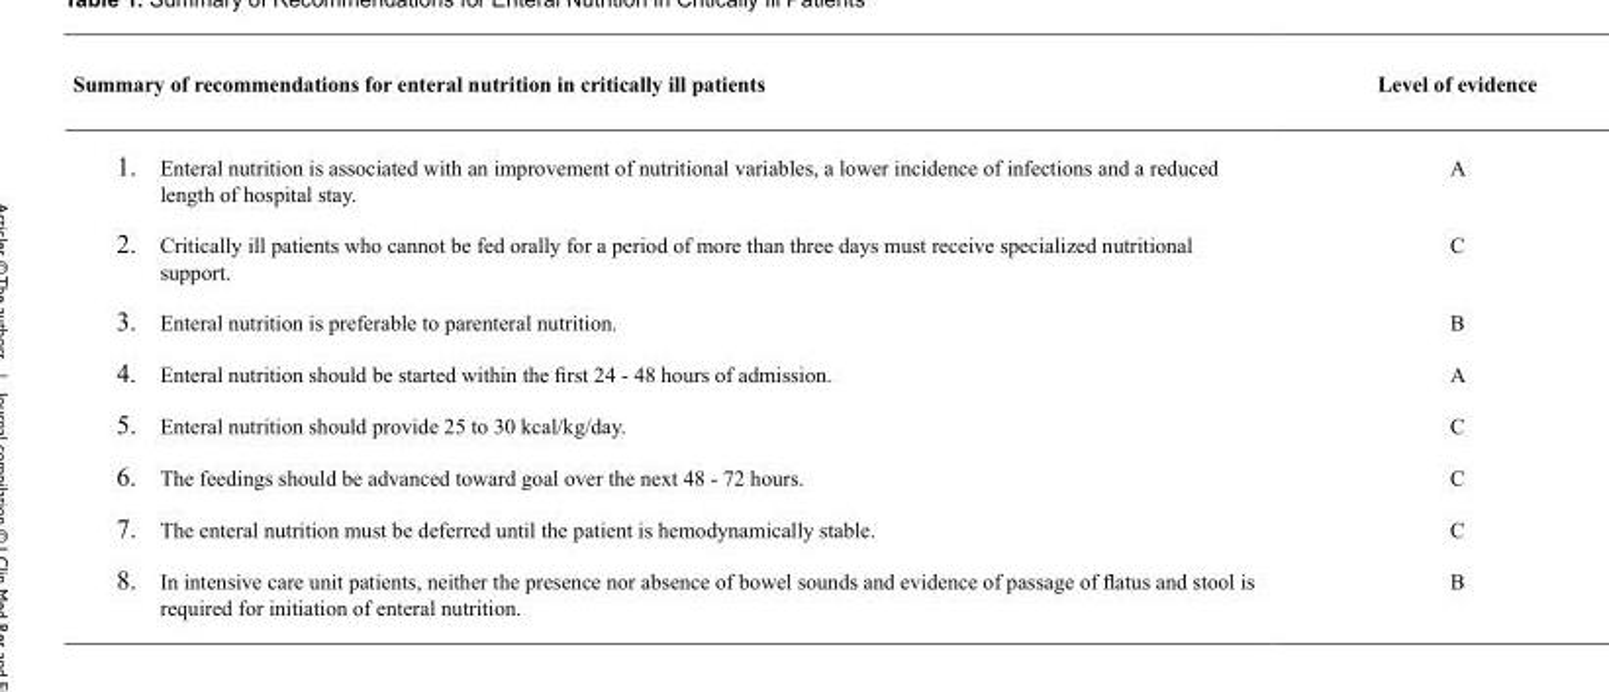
<table><thead><tr><td>Summary of recommendations for enteral nutrition in critically ill patients</td><td>Level of evidence</td></tr></thead><tbody><tr><td>1. Enteral nutrition is associated with an improvement of nutritional variables, a lower incidence of infections and a reduced length of hospital stay.</td><td>A</td></tr><tr><td>2. Critically ill patients who cannot be fed orally for a period of more than three days must receive specialized nutritional support.</td><td>C</td></tr><tr><td>3. Enteral nutrition is preferable to parenteral nutrition.</td><td>B</td></tr><tr><td>4. Enteral nutrition should be started within the first 24 - 48 hours of admission.</td><td>A</td></tr><tr><td>5. Enteral nutrition should provide 25 to 30 kcal/kg/day.</td><td>C</td></tr><tr><td>6. The feedings should be advanced toward goal over the next 48 - 72 hours.</td><td>C</td></tr><tr><td>7. The enteral nutrition must be deferred until the patient is hemodynamically stable.</td><td>C</td></tr><tr><td>8. In intensive care unit patients, neither the presence nor absence of bowel sounds and evidence of passage of flatus and stool is required for initiation of enteral nutrition.</td><td>B</td></tr></tbody></table>